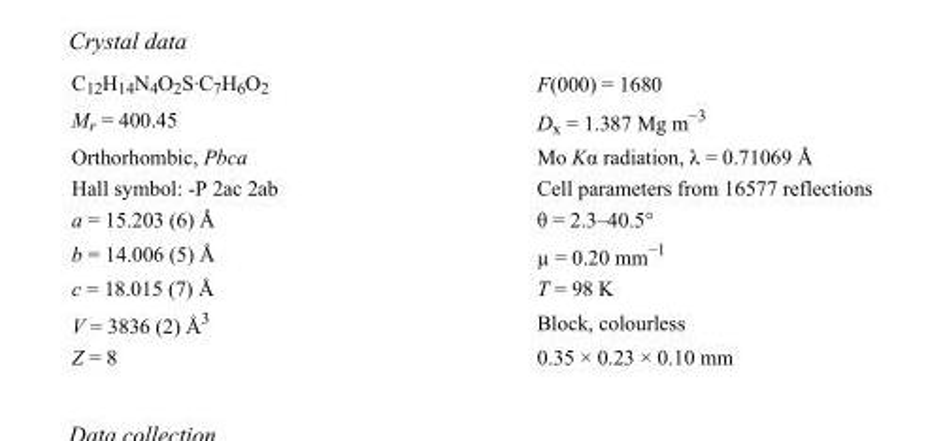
<table><tbody><tr><td>C<sub>12</sub>H<sub>14</sub>N<sub>4</sub>O<sub>2</sub>S·C<sub>7</sub>H<sub>6</sub>O<sub>2</sub></td><td>F(000) = 1680</td></tr><tr><td>M<sub>r</sub> = 400.45</td><td>D<sub>x</sub> = 1.387 Mg m<sup>−3</sup></td></tr><tr><td>Orthorhombic, Pbca</td><td>Mo Kα radiation, λ = 0.71069 Å</td></tr><tr><td>Hall symbol: -P 2ac 2ab</td><td>Cell parameters from 16577 reflections</td></tr><tr><td>a = 15.203 (6) Å</td><td>θ = 2.3–40.5°</td></tr><tr><td>b = 14.006 (5) Å</td><td>µ = 0.20 mm<sup>−1</sup></td></tr><tr><td>c = 18.015 (7) Å</td><td>T = 98 K</td></tr><tr><td>V = 3836 (2) Å<sup>3</sup></td><td>Block, colourless</td></tr><tr><td>Z = 8</td><td>0.35 × 0.23 × 0.10 mm</td></tr></tbody></table>